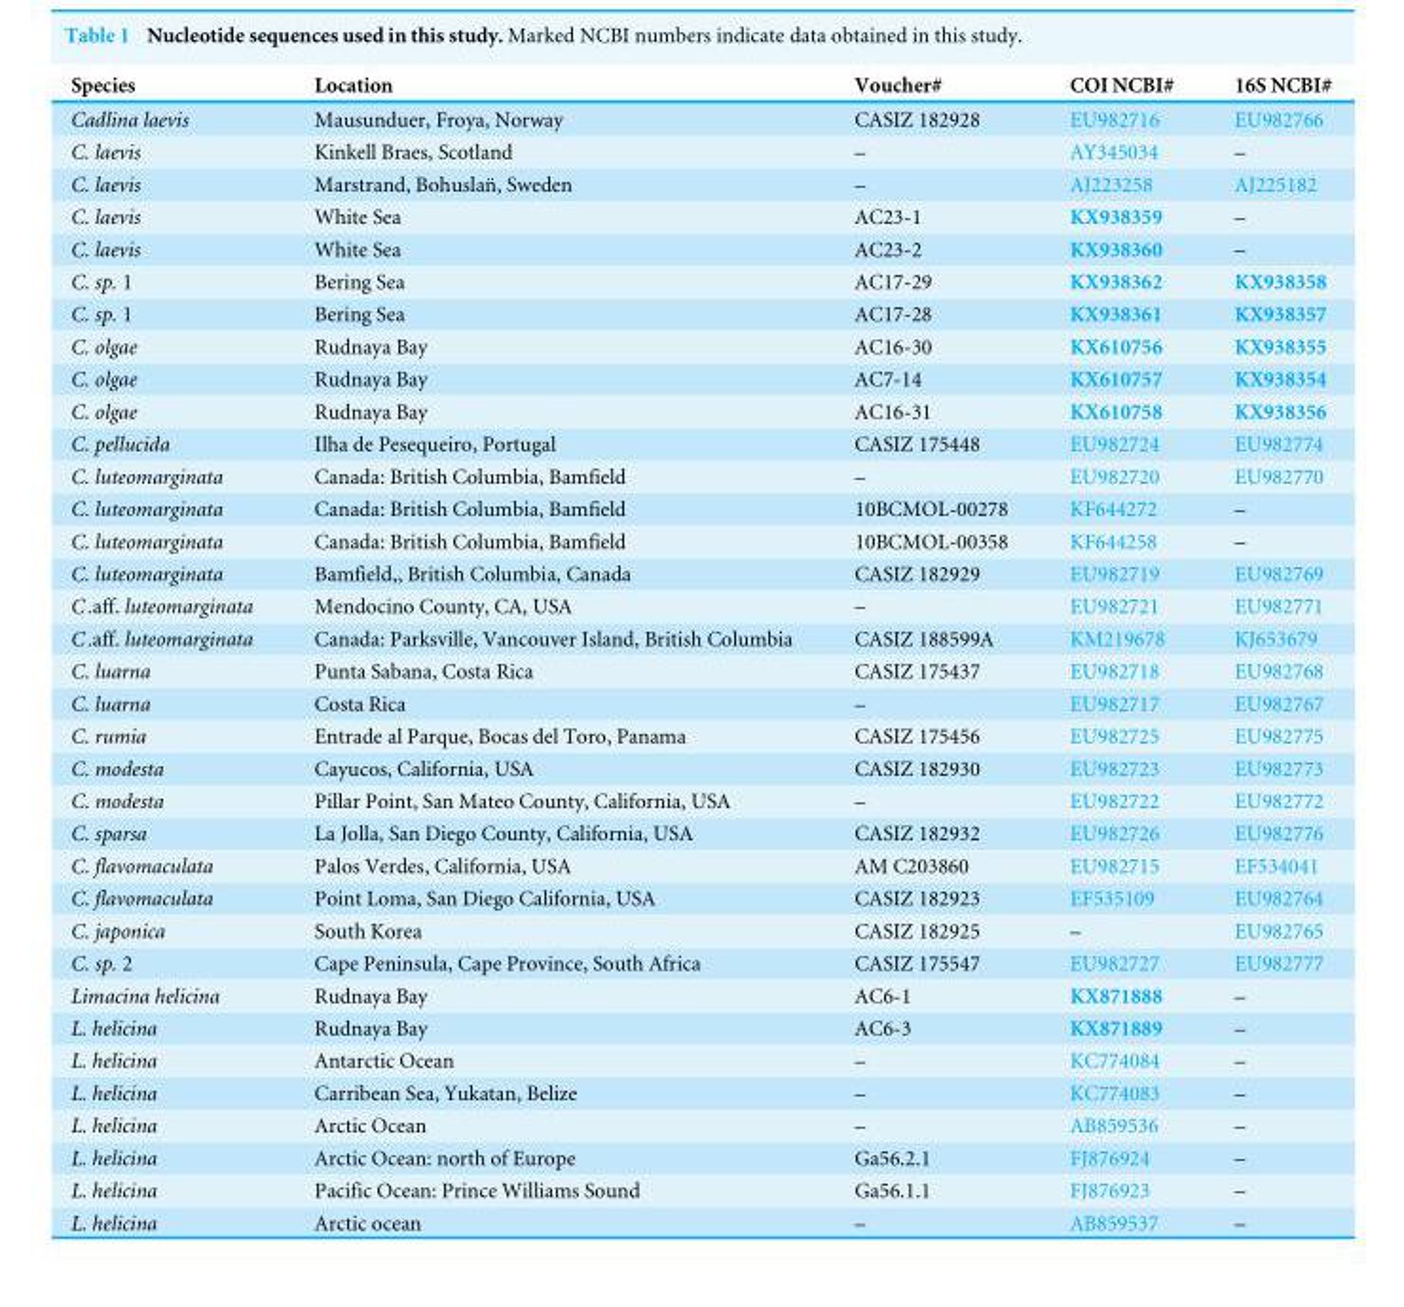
<table><thead><tr><td>Species</td><td>Location</td><td>Voucher#</td><td>COI NCBI#</td><td>16S NCBI#</td></tr></thead><tbody><tr><td>Cadlina laevis</td><td>Mausunduer, Froya, Norway</td><td>CASIZ 182928</td><td>EU982716</td><td>EU982766</td></tr><tr><td>C. laevis</td><td>Kinkell Braes, Scotland</td><td>–</td><td>AY345034</td><td>–</td></tr><tr><td>C. laevis</td><td>Marstrand, Bohusla¨n, Sweden</td><td>–</td><td>AJ223258</td><td>AJ225182</td></tr><tr><td>C. laevis</td><td>White Sea</td><td>AC23-1</td><td>KX938359</td><td>–</td></tr><tr><td>C. laevis</td><td>White Sea</td><td>AC23-2</td><td>KX938360</td><td>–</td></tr><tr><td>C. sp. 1</td><td>Bering Sea</td><td>AC17-29</td><td>KX938362</td><td>KX938358</td></tr><tr><td>C. sp. 1</td><td>Bering Sea</td><td>AC17-28</td><td>KX938361</td><td>KX938357</td></tr><tr><td>C. olgae</td><td>Rudnaya Bay</td><td>AC16-30</td><td>KX610756</td><td>KX938355</td></tr><tr><td>C. olgae</td><td>Rudnaya Bay</td><td>AC7-14</td><td>KX610757</td><td>KX938354</td></tr><tr><td>C. olgae</td><td>Rudnaya Bay</td><td>AC16-31</td><td>KX610758</td><td>KX938356</td></tr><tr><td>C. pellucida</td><td>Ilha de Pesequeiro, Portugal</td><td>CASIZ 175448</td><td>EU982724</td><td>EU982774</td></tr><tr><td>C. luteomarginata</td><td>Canada: British Columbia, Bamfield</td><td>–</td><td>EU982720</td><td>EU982770</td></tr><tr><td>C. luteomarginata</td><td>Canada: British Columbia, Bamfield</td><td>10BCMOL-00278</td><td>KF644272</td><td>–</td></tr><tr><td>C. luteomarginata</td><td>Canada: British Columbia, Bamfield</td><td>10BCMOL-00358</td><td>KF644258</td><td>–</td></tr><tr><td>C. luteomarginata</td><td>Bamfield,, British Columbia, Canada</td><td>CASIZ 182929</td><td>EU982719</td><td>EU982769</td></tr><tr><td>C.aff. luteomarginata</td><td>Mendocino County, CA, USA</td><td>–</td><td>EU982721</td><td>EU982771</td></tr><tr><td>C.aff. luteomarginata</td><td>Canada: Parksville, Vancouver Island, British Columbia</td><td>CASIZ 188599A</td><td>KM219678</td><td>KJ653679</td></tr><tr><td>C. luarna</td><td>Punta Sabana, Costa Rica</td><td>CASIZ 175437</td><td>EU982718</td><td>EU982768</td></tr><tr><td>C. luarna</td><td>Costa Rica</td><td>–</td><td>EU982717</td><td>EU982767</td></tr><tr><td>C. rumia</td><td>Entrade al Parque, Bocas del Toro, Panama</td><td>CASIZ 175456</td><td>EU982725</td><td>EU982775</td></tr><tr><td>C. modesta</td><td>Cayucos, California, USA</td><td>CASIZ 182930</td><td>EU982723</td><td>EU982773</td></tr><tr><td>C. modesta</td><td>Pillar Point, San Mateo County, California, USA</td><td>–</td><td>EU982722</td><td>EU982772</td></tr><tr><td>C. sparsa</td><td>La Jolla, San Diego County, California, USA</td><td>CASIZ 182932</td><td>EU982726</td><td>EU982776</td></tr><tr><td>C. flavomaculata</td><td>Palos Verdes, California, USA</td><td>AM C203860</td><td>EU982715</td><td>EF534041</td></tr><tr><td>C. flavomaculata</td><td>Point Loma, San Diego California, USA</td><td>CASIZ 182923</td><td>EF535109</td><td>EU982764</td></tr><tr><td>C. japonica</td><td>South Korea</td><td>CASIZ 182925</td><td>–</td><td>EU982765</td></tr><tr><td>C. sp. 2</td><td>Cape Peninsula, Cape Province, South Africa</td><td>CASIZ 175547</td><td>EU982727</td><td>EU982777</td></tr><tr><td>Limacina helicina</td><td>Rudnaya Bay</td><td>AC6-1</td><td>KX871888</td><td>–</td></tr><tr><td>L. helicina</td><td>Rudnaya Bay</td><td>AC6-3</td><td>KX871889</td><td>–</td></tr><tr><td>L. helicina</td><td>Antarctic Ocean</td><td>–</td><td>KC774084</td><td>–</td></tr><tr><td>L. helicina</td><td>Carribean Sea, Yukatan, Belize</td><td>–</td><td>KC774083</td><td>–</td></tr><tr><td>L. helicina</td><td>Arctic Ocean</td><td>–</td><td>AB859536</td><td>–</td></tr><tr><td>L. helicina</td><td>Arctic Ocean: north of Europe</td><td>Ga56.2.1</td><td>FJ876924</td><td>–</td></tr><tr><td>L. helicina</td><td>Pacific Ocean: Prince Williams Sound</td><td>Ga56.1.1</td><td>FJ876923</td><td>–</td></tr><tr><td>L. helicina</td><td>Arctic ocean</td><td>–</td><td>AB859537</td><td>–</td></tr></tbody></table>